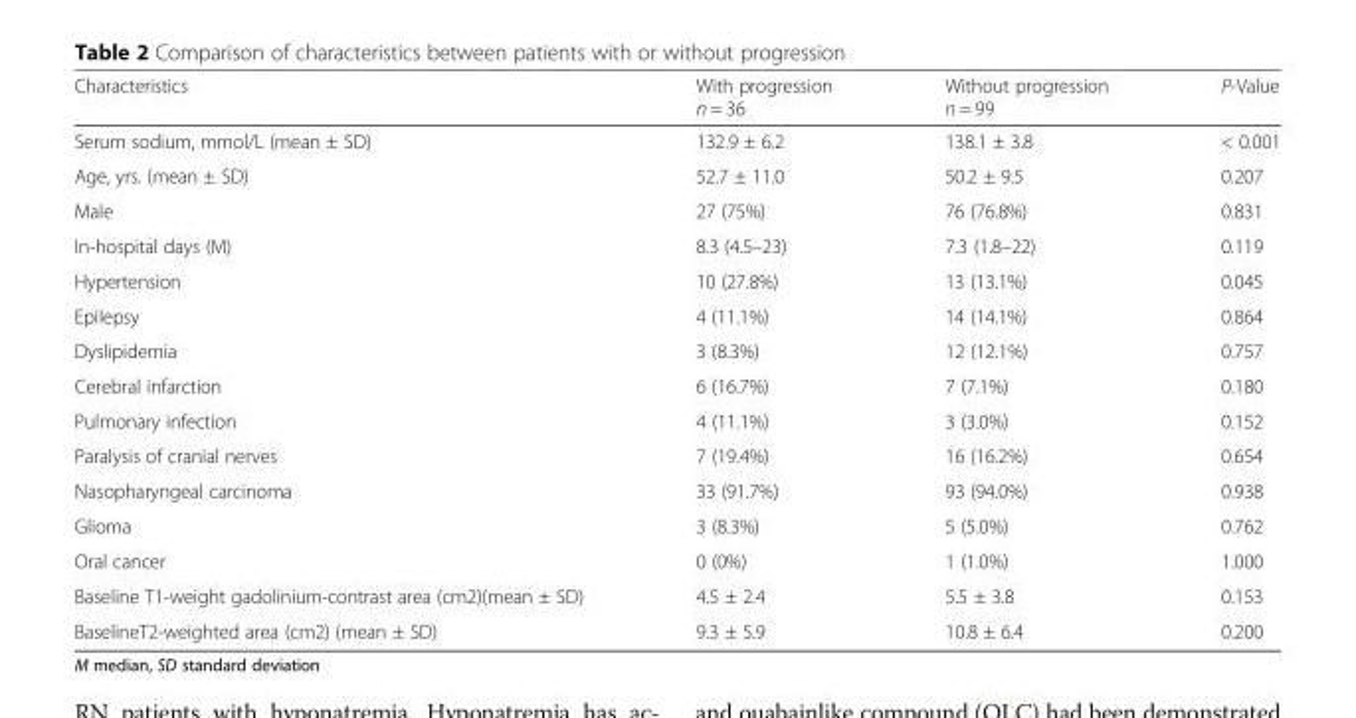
<table><thead><tr><td>Characteristics</td><td>With progression n = 36</td><td>Without progression n = 99</td><td>P-Value</td></tr></thead><tbody><tr><td>Serum sodium, mmol/L (mean ± SD)</td><td>132.9 ± 6.2</td><td>138.1 ± 3.8</td><td>&lt; 0.001</td></tr><tr><td>Age, yrs. (mean ± SD)</td><td>52.7 ± 11.0</td><td>50.2 ± 9.5</td><td>0.207</td></tr><tr><td>Male</td><td>27 (75%)</td><td>76 (76.8%)</td><td>0.831</td></tr><tr><td>In-hospital days (M)</td><td>8.3 (4.5–23)</td><td>7.3 (1.8–22)</td><td>0.119</td></tr><tr><td>Hypertension</td><td>10 (27.8%)</td><td>13 (13.1%)</td><td>0.045</td></tr><tr><td>Epilepsy</td><td>4 (11.1%)</td><td>14 (14.1%)</td><td>0.864</td></tr><tr><td>Dyslipidemia</td><td>3 (8.3%)</td><td>12 (12.1%)</td><td>0.757</td></tr><tr><td>Cerebral infarction</td><td>6 (16.7%)</td><td>7 (7.1%)</td><td>0.180</td></tr><tr><td>Pulmonary infection</td><td>4 (11.1%)</td><td>3 (3.0%)</td><td>0.152</td></tr><tr><td>Paralysis of cranial nerves</td><td>7 (19.4%)</td><td>16 (16.2%)</td><td>0.654</td></tr><tr><td>Nasopharyngeal carcinoma</td><td>33 (91.7%)</td><td>93 (94.0%)</td><td>0.938</td></tr><tr><td>Glioma</td><td>3 (8.3%)</td><td>5 (5.0%)</td><td>0.762</td></tr><tr><td>Oral cancer</td><td>0 (0%)</td><td>1 (1.0%)</td><td>1.000</td></tr><tr><td>Baseline T1-weight gadolinium-contrast area (cm2)(mean ± SD)</td><td>4.5 ± 2.4</td><td>5.5 ± 3.8</td><td>0.153</td></tr><tr><td>BaselineT2-weighted area (cm2) (mean ± SD)</td><td>9.3 ± 5.9</td><td>10.8 ± 6.4</td><td>0.200</td></tr></tbody></table>